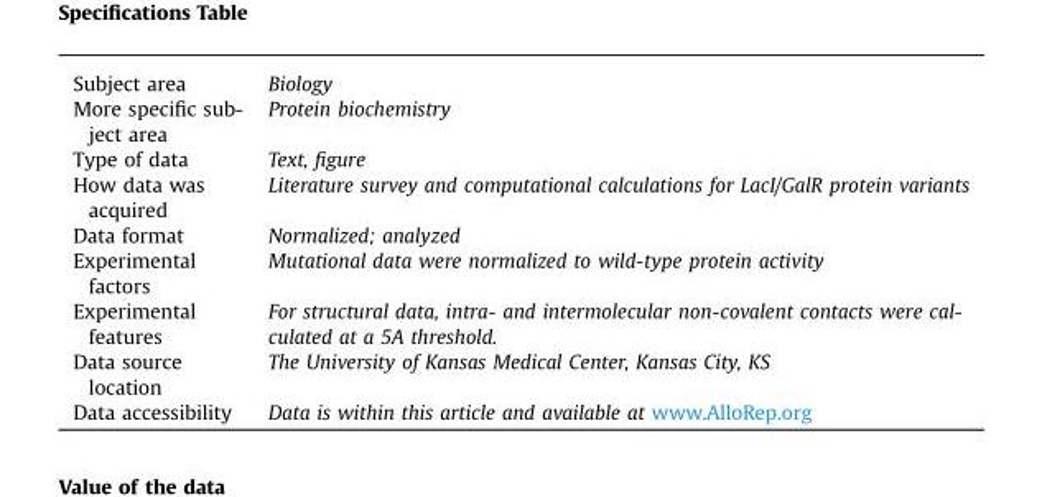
<table><thead><tr><td>Subject area</td><td>Biology</td></tr></thead><tbody><tr><td>More specific sub- ject area</td><td>Protein biochemistry</td></tr><tr><td>Type of data</td><td>Text, figure</td></tr><tr><td>How data was acquired</td><td>Literature survey and computational calculations for LacI/GalR protein variants</td></tr><tr><td>Data format</td><td>Normalized; analyzed</td></tr><tr><td>Experimental factors</td><td>Mutational data were normalized to wild-type protein activity</td></tr><tr><td>Experimental features</td><td>For structural data, intra- and intermolecular non-covalent contacts were cal- culated at a 5A threshold.</td></tr><tr><td>Data source location</td><td>The University of Kansas Medical Center, Kansas City, KS</td></tr><tr><td>Data accessibility</td><td>Data is within this article and available at www.AlloRep.org</td></tr></tbody></table>